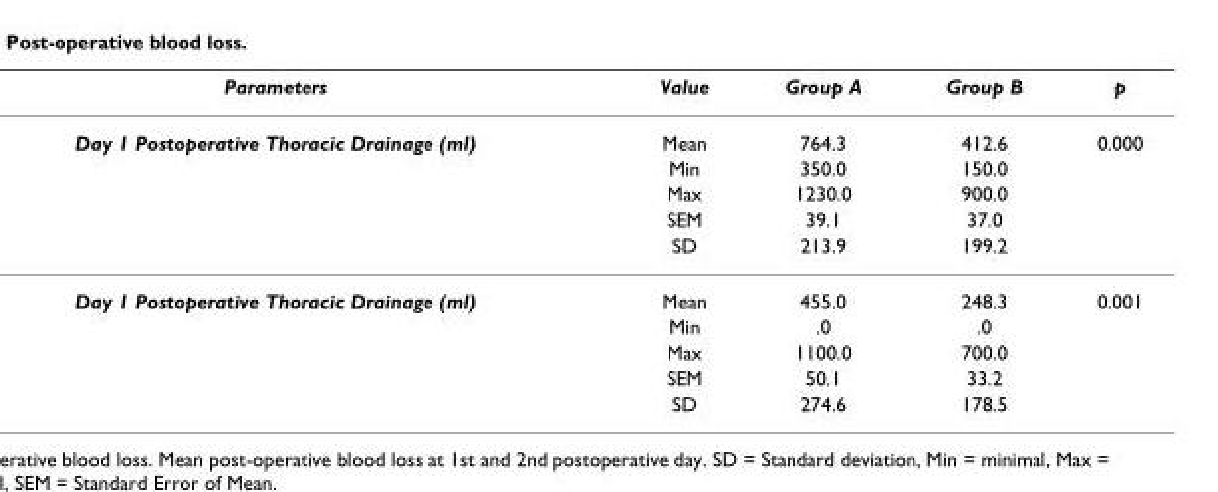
<table><thead><tr><td>Parameters</td><td>Value</td><td>Group A</td><td>Group B</td><td>p</td></tr></thead><tbody><tr><td rowspan="5">Day 1 Postoperative Thoracic Drainage (ml)</td><td>Mean</td><td>764.3</td><td>412.6</td><td>0.000</td></tr><tr><td>Min</td><td>350.0</td><td>150.0</td><td></td></tr><tr><td>Max</td><td>1230.0</td><td>900.0</td><td></td></tr><tr><td>SEM</td><td>39.1</td><td>37.0</td><td></td></tr><tr><td>SD</td><td>213.9</td><td>199.2</td><td></td></tr><tr><td rowspan="5">Day 1 Postoperative Thoracic Drainage (ml)</td><td>Mean</td><td>455.0</td><td>248.3</td><td>0.001</td></tr><tr><td>Min</td><td>.0</td><td>.0</td><td></td></tr><tr><td>Max</td><td>1100.0</td><td>700.0</td><td></td></tr><tr><td>SEM</td><td>50.1</td><td>33.2</td><td></td></tr><tr><td>SD</td><td>274.6</td><td>178.5</td><td></td></tr></tbody></table>